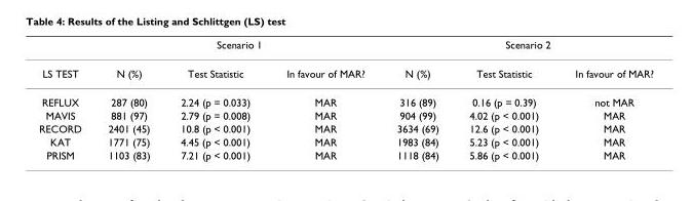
<table><thead><tr><td rowspan="2">LS TEST</td><td colspan="3">Scenario 1</td><td colspan="3">Scenario 2</td></tr><tr><td>N (%)</td><td>Test Statistic</td><td>In favour of MAR?</td><td>N (%)</td><td>Test Statistic</td><td>In favour of MAR?</td></tr></thead><tbody><tr><td>REFLUX</td><td>287 (80)</td><td>2.24 (p = 0.033)</td><td>MAR</td><td>316 (89)</td><td>0.16 (p = 0.39)</td><td>not MAR</td></tr><tr><td>MAVIS</td><td>881 (97)</td><td>2.79 (p = 0.008)</td><td>MAR</td><td>904 (99)</td><td>4.02 (p &lt; 0.001)</td><td>MAR</td></tr><tr><td>RECORD</td><td>2401 (45)</td><td>10.8 (p &lt; 0.001)</td><td>MAR</td><td>3634 (69)</td><td>12.6 (p &lt; 0.001)</td><td>MAR</td></tr><tr><td>KAT</td><td>1771 (75)</td><td>4.45 (p &lt; 0.001)</td><td>MAR</td><td>1983 (84)</td><td>5.23 (p &lt; 0.001)</td><td>MAR</td></tr><tr><td>PRISM</td><td>1103 (83)</td><td>7.21 (p &lt; 0.001)</td><td>MAR</td><td>1118 (84)</td><td>5.86 (p &lt; 0.001)</td><td>MAR</td></tr></tbody></table>